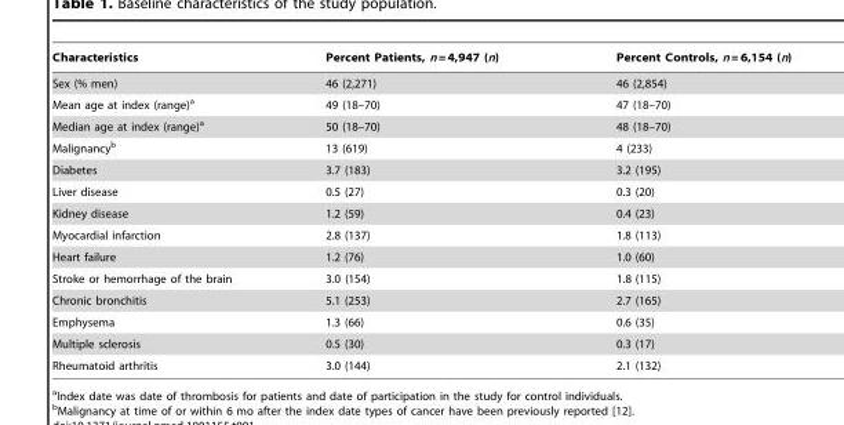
<table><thead><tr><td>Characteristics</td><td>Percent Patients, n = 4,947 (n)</td><td>Percent Controls, n = 6,154 (n)</td></tr></thead><tbody><tr><td>Sex (% men)</td><td>46 (2,271)</td><td>46 (2,854)</td></tr><tr><td>Mean age at index (range)<sup>a</sup></td><td>49 (18–70)</td><td>47 (18–70)</td></tr><tr><td>Median age at index (range)<sup>a</sup></td><td>50 (18–70)</td><td>48 (18–70)</td></tr><tr><td>Malignancy<sup>b</sup></td><td>13 (619)</td><td>4 (233)</td></tr><tr><td>Diabetes</td><td>3.7 (183)</td><td>3.2 (195)</td></tr><tr><td>Liver disease</td><td>0.5 (27)</td><td>0.3 (20)</td></tr><tr><td>Kidney disease</td><td>1.2 (59)</td><td>0.4 (23)</td></tr><tr><td>Myocardial infarction</td><td>2.8 (137)</td><td>1.8 (113)</td></tr><tr><td>Heart failure</td><td>1.2 (76)</td><td>1.0 (60)</td></tr><tr><td>Stroke or hemorrhage of the brain</td><td>3.0 (154)</td><td>1.8 (115)</td></tr><tr><td>Chronic bronchitis</td><td>5.1 (253)</td><td>2.7 (165)</td></tr><tr><td>Emphysema</td><td>1.3 (66)</td><td>0.6 (35)</td></tr><tr><td>Multiple sclerosis</td><td>0.5 (30)</td><td>0.3 (17)</td></tr><tr><td>Rheumatoid arthritis</td><td>3.0 (144)</td><td>2.1 (132)</td></tr></tbody></table>